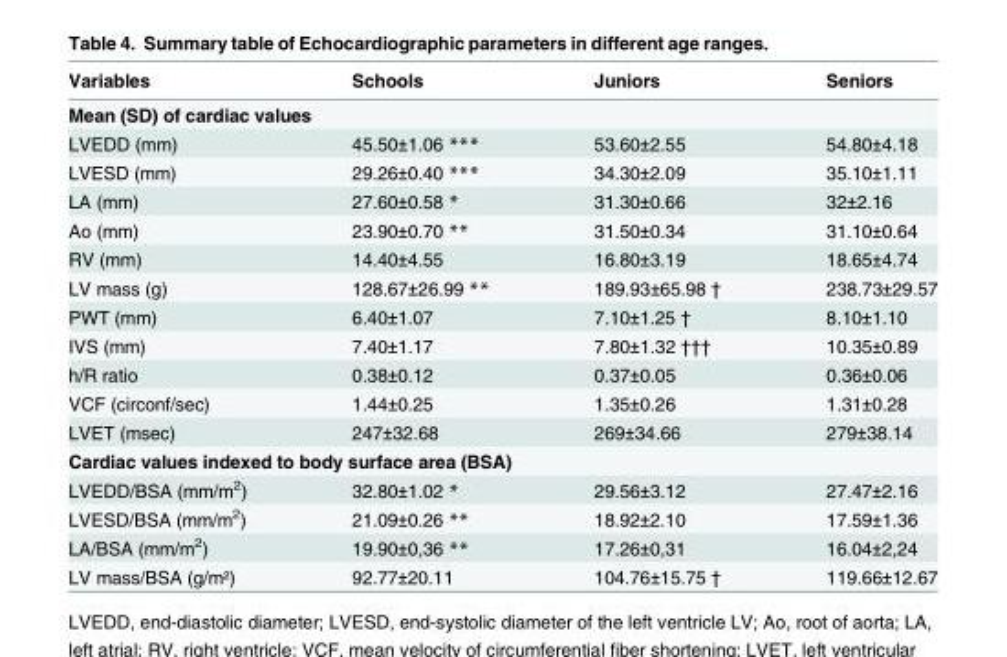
<table><thead><tr><td>Variables</td><td>Schools</td><td>Juniors</td><td>Seniors</td></tr></thead><tbody><tr><td colspan="4">Mean (SD) of cardiac values</td></tr><tr><td>LVEDD (mm)</td><td>45.50±1.06 ***</td><td>53.60±2.55</td><td>54.80±4.18</td></tr><tr><td>LVESD (mm)</td><td>29.26±0.40 ***</td><td>34.30±2.09</td><td>35.10±1.11</td></tr><tr><td>LA (mm)</td><td>27.60±0.58 *</td><td>31.30±0.66</td><td>32±2.16</td></tr><tr><td>Ao (mm)</td><td>23.90±0.70 **</td><td>31.50±0.34</td><td>31.10±0.64</td></tr><tr><td>RV (mm)</td><td>14.40±4.55</td><td>16.80±3.19</td><td>18.65±4.74</td></tr><tr><td>LV mass (g)</td><td>128.67±26.99 **</td><td>189.93±65.98 †</td><td>238.73±29.57</td></tr><tr><td>PWT (mm)</td><td>6.40±1.07</td><td>7.10±1.25 †</td><td>8.10±1.10</td></tr><tr><td>IVS (mm)</td><td>7.40±1.17</td><td>7.80±1.32 †††</td><td>10.35±0.89</td></tr><tr><td>h/R ratio</td><td>0.38±0.12</td><td>0.37±0.05</td><td>0.36±0.06</td></tr><tr><td>VCF (circonf/sec)</td><td>1.44±0.25</td><td>1.35±0.26</td><td>1.31±0.28</td></tr><tr><td>LVET (msec)</td><td>247±32.68</td><td>269±34.66</td><td>279±38.14</td></tr><tr><td colspan="4">Cardiac values indexed to body surface area (BSA)</td></tr><tr><td>LVEDD/BSA (mm/m<sup>2</sup>)</td><td>32.80±1.02 *</td><td>29.56±3.12</td><td>27.47±2.16</td></tr><tr><td>LVESD/BSA (mm/m<sup>2</sup>)</td><td>21.09±0.26 **</td><td>18.92±2.10</td><td>17.59±1.36</td></tr><tr><td>LA/BSA (mm/m<sup>2</sup>)</td><td>19.90±0,36 **</td><td>17.26±0,31</td><td>16.04±2,24</td></tr><tr><td>LV mass/BSA (g/m²)</td><td>92.77±20.11</td><td>104.76±15.75 †</td><td>119.66±12.67</td></tr></tbody></table>